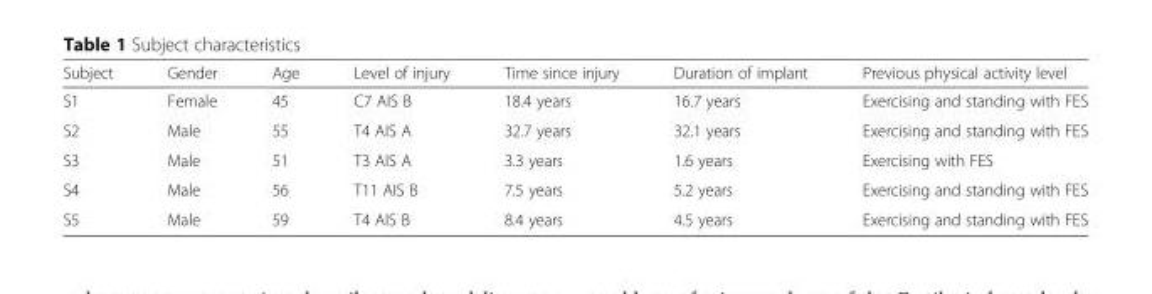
<table><thead><tr><td>Subject</td><td>Gender</td><td>Age</td><td>Level of injury</td><td>Time since injury</td><td>Duration of implant</td><td>Previous physical activity level</td></tr></thead><tbody><tr><td>S1</td><td>Female</td><td>45</td><td>C7 AIS B</td><td>18.4 years</td><td>16.7 years</td><td>Exercising and standing with FES</td></tr><tr><td>S2</td><td>Male</td><td>55</td><td>T4 AIS A</td><td>32.7 years</td><td>32.1 years</td><td>Exercising and standing with FES</td></tr><tr><td>S3</td><td>Male</td><td>51</td><td>T3 AIS A</td><td>3.3 years</td><td>1.6 years</td><td>Exercising with FES</td></tr><tr><td>S4</td><td>Male</td><td>56</td><td>T11 AIS B</td><td>7.5 years</td><td>5.2 years</td><td>Exercising and standing with FES</td></tr><tr><td>S5</td><td>Male</td><td>59</td><td>T4 AIS B</td><td>8.4 years</td><td>4.5 years</td><td>Exercising and standing with FES</td></tr></tbody></table>